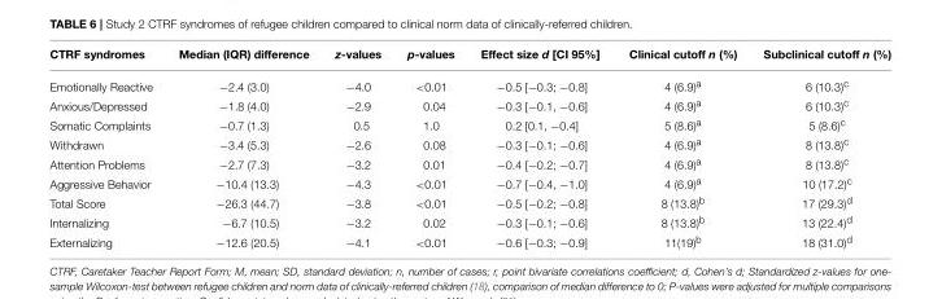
<table><thead><tr><td>CTRF syndromes</td><td>Median (IQR) difference</td><td>z-values</td><td>p-values</td><td>Effect size d [CI 95%]</td><td>Clinical cutoff n (%)</td><td>Subclinical cutoff n (%)</td></tr></thead><tbody><tr><td>Emotionally Reactive</td><td>−2.4 (3.0)</td><td>−4.0</td><td>&lt;0.01</td><td>−0.5 [−0.3; −0.8]</td><td>4 (6.9)<sup>a</sup></td><td>6 (10.3)<sup>c</sup></td></tr><tr><td>Anxious/Depressed</td><td>−1.8 (4.0)</td><td>−2.9</td><td>0.04</td><td>−0.3 [−0.1, −0.6]</td><td>4 (6.9)<sup>a</sup></td><td>6 (10.3)<sup>c</sup></td></tr><tr><td>Somatic Complaints</td><td>−0.7 (1.3)</td><td>0.5</td><td>1.0</td><td>0.2 [0.1, −0.4]</td><td>5 (8.6)<sup>a</sup></td><td>5 (8.6)<sup>c</sup></td></tr><tr><td>Withdrawn</td><td>−3.4 (5.3)</td><td>−2.6</td><td>0.08</td><td>−0.3 [−0.1; −0.6]</td><td>4 (6.9)<sup>a</sup></td><td>8 (13.8)<sup>c</sup></td></tr><tr><td>Attention Problems</td><td>−2.7 (7.3)</td><td>−3.2</td><td>0.01</td><td>−0.4 [−0.2; −0.7]</td><td>4 (6.9)<sup>a</sup></td><td>8 (13.8)<sup>c</sup></td></tr><tr><td>Aggressive Behavior</td><td>−10.4 (13.3)</td><td>−4.3</td><td>&lt;0.01</td><td>−0.7 [−0.4, −1.0]</td><td>4 (6.9)<sup>a</sup></td><td>10 (17.2)<sup>c</sup></td></tr><tr><td>Total Score</td><td>−26.3 (44.7)</td><td>−3.8</td><td>&lt;0.01</td><td>−0.5 [−0.2; −0.8]</td><td>8 (13.8)<sup>b</sup></td><td>17 (29.3)<sup>d</sup></td></tr><tr><td>Internalizing</td><td>−6.7 (10.5)</td><td>−3.2</td><td>0.02</td><td>−0.3 [−0.1; −0.6]</td><td>8 (13.8)<sup>b</sup></td><td>13 (22.4)<sup>d</sup></td></tr><tr><td>Externalizing</td><td>−12.6 (20.5)</td><td>−4.1</td><td>&lt;0.01</td><td>−0.6 [−0.3; −0.9]</td><td>11(19)<sup>b</sup></td><td>18 (31.0)<sup>d</sup></td></tr></tbody></table>